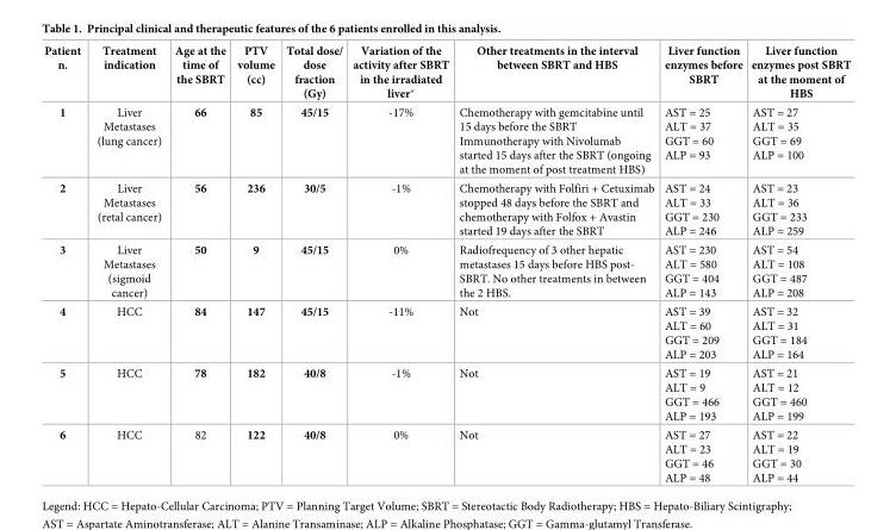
<table><thead><tr><td>Patient n.</td><td>Treatment indication</td><td>Age at the time of the SBRT</td><td>PTV volume (cc)</td><td>Total dose/ dose fraction (Gy)</td><td>Variation of the activity after SBRT in the irradiated liver*</td><td>Other treatments in the interval between SBRT and HBS</td><td>Liver function enzymes before SBRT</td><td>Liver function enzymes post SBRT at the moment of HBS</td></tr></thead><tbody><tr><td>1</td><td>Liver Metastases (lung cancer)</td><td>66</td><td>85</td><td>45/15</td><td>-17%</td><td>Chemotherapy with gemcitabine until 15 days before the SBRT Immunotherapy with Nivolumab started 15 days after the SBRT (ongoing at the moment of post treatment HBS)</td><td>AST = 25 ALT = 37 GGT = 60 ALP = 93</td><td>AST = 27 ALT = 35 GGT = 69 ALP = 100</td></tr><tr><td>2</td><td>Liver Metastases (retal cancer)</td><td>56</td><td>236</td><td>30/5</td><td>-1%</td><td>Chemotherapy with Folfiri + Cetuximab stopped 48 days before the SBRT and chemotherapy with Folfox + Avastin started 19 days after the SBRT</td><td>AST = 24 ALT = 33 GGT = 230 ALP = 246</td><td>AST = 23 ALT = 36 GGT = 233 ALP = 259</td></tr><tr><td>3</td><td>Liver Metastases (sigmoid cancer)</td><td>50</td><td>9</td><td>45/15</td><td>0%</td><td>Radiofrequency of 3 other hepatic metastases 15 days before HBS post- SBRT. No other treatments in between the 2 HBS.</td><td>AST = 230 ALT = 580 GGT = 404 ALP = 143</td><td>AST = 54 ALT = 108 GGT = 487 ALP = 208</td></tr><tr><td>4</td><td>HCC</td><td>84</td><td>147</td><td>45/15</td><td>-11%</td><td>Not</td><td>AST = 39 ALT = 60 GGT = 209 ALP = 203</td><td>AST = 32 ALT = 31 GGT = 184 ALP = 164</td></tr><tr><td>5</td><td>HCC</td><td>78</td><td>182</td><td>40/8</td><td>-1%</td><td>Not</td><td>AST = 19 ALT = 9 GGT = 466 ALP = 193</td><td>AST = 21 ALT = 12 GGT = 460 ALP = 199</td></tr><tr><td>6</td><td>HCC</td><td>82</td><td>122</td><td>40/8</td><td>0%</td><td>Not</td><td>AST = 27 ALT = 23 GGT = 46 ALP = 48</td><td>AST = 22 ALT = 19 GGT = 30 ALP = 44</td></tr></tbody></table>